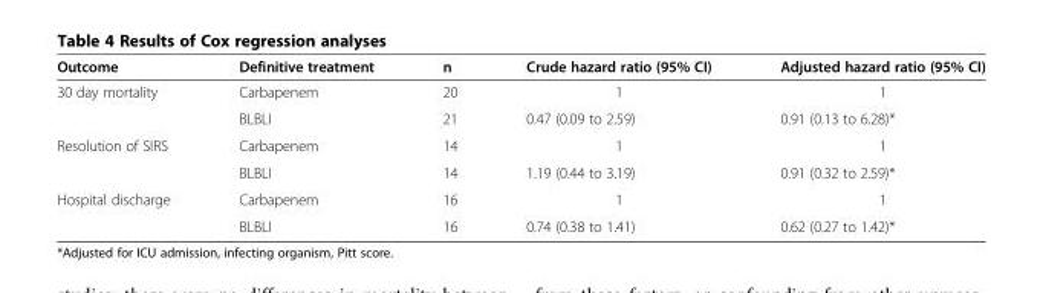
<table><thead><tr><td>Outcome</td><td>Definitive treatment</td><td>n</td><td>Crude hazard ratio (95% CI)</td><td>Adjusted hazard ratio (95% CI)</td></tr></thead><tbody><tr><td rowspan="2">30 day mortality</td><td>Carbapenem</td><td>20</td><td>1</td><td>1</td></tr><tr><td>BLBLI</td><td>21</td><td>0.47 (0.09 to 2.59)</td><td>0.91 (0.13 to 6.28)*</td></tr><tr><td rowspan="2">Resolution of SIRS</td><td>Carbapenem</td><td>14</td><td>1</td><td>1</td></tr><tr><td>BLBLI</td><td>14</td><td>1.19 (0.44 to 3.19)</td><td>0.91 (0.32 to 2.59)*</td></tr><tr><td rowspan="2">Hospital discharge</td><td>Carbapenem</td><td>16</td><td>1</td><td>1</td></tr><tr><td>BLBLI</td><td>16</td><td>0.74 (0.38 to 1.41)</td><td>0.62 (0.27 to 1.42)*</td></tr></tbody></table>